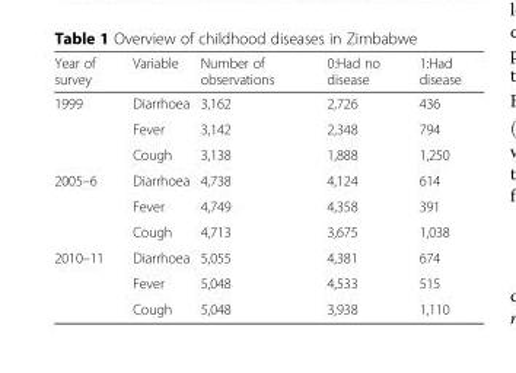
<table><thead><tr><td>Year of survey</td><td>Variable</td><td>Number of observations</td><td>0:Had no disease</td><td>1:Had disease</td></tr></thead><tbody><tr><td rowspan="3">1999</td><td>Diarrhoea</td><td>3,162</td><td>2,726</td><td>436</td></tr><tr><td>Fever</td><td>3,142</td><td>2,348</td><td>794</td></tr><tr><td>Cough</td><td>3,138</td><td>1,888</td><td>1,250</td></tr><tr><td rowspan="3">2005–6</td><td>Diarrhoea</td><td>4,738</td><td>4,124</td><td>614</td></tr><tr><td>Fever</td><td>4,749</td><td>4,358</td><td>391</td></tr><tr><td>Cough</td><td>4,713</td><td>3,675</td><td>1,038</td></tr><tr><td rowspan="3">2010–11</td><td>Diarrhoea</td><td>5,055</td><td>4,381</td><td>674</td></tr><tr><td>Fever</td><td>5,048</td><td>4,533</td><td>515</td></tr><tr><td>Cough</td><td>5,048</td><td>3,938</td><td>1,110</td></tr></tbody></table>